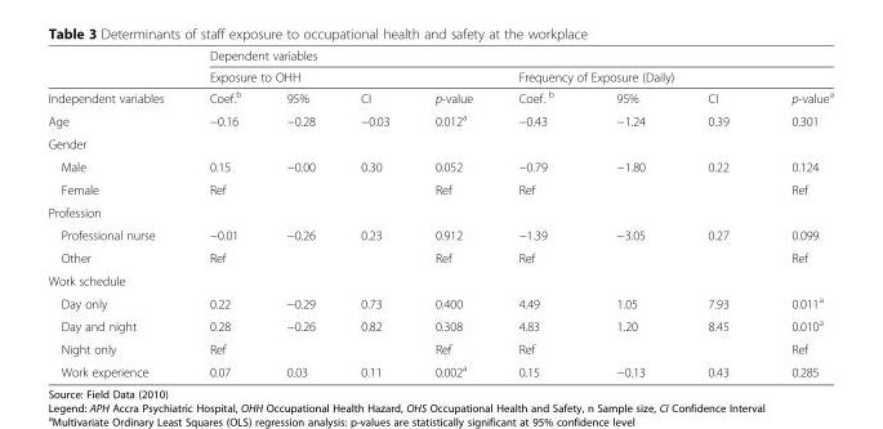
<table><thead><tr><td rowspan="3">Independent variables</td><td colspan="8">Dependent variables</td></tr><tr><td colspan="3">Exposure to OHH</td><td rowspan="2">p-value</td><td colspan="3">Frequency of Exposure (Daily)</td><td rowspan="2">p-value<sup>a</sup></td></tr><tr><td>Coef.<sup>b</sup></td><td>95%</td><td>CI</td><td>Coef. <sup>b</sup></td><td>95%</td><td>CI</td></tr></thead><tbody><tr><td>Age</td><td>−0.16</td><td>−0.28</td><td>−0.03</td><td>0.012<sup>a</sup></td><td>−0.43</td><td>−1.24</td><td>0.39</td><td>0.301</td></tr><tr><td colspan="9">Gender</td></tr><tr><td>Male</td><td>0.15</td><td>−0.00</td><td>0.30</td><td>0.052</td><td>−0.79</td><td>−1.80</td><td>0.22</td><td>0.124</td></tr><tr><td>Female</td><td>Ref</td><td></td><td></td><td>Ref</td><td>Ref</td><td></td><td></td><td>Ref</td></tr><tr><td colspan="9">Profession</td></tr><tr><td>Professional nurse</td><td>−0.01</td><td>−0.26</td><td>0.23</td><td>0.912</td><td>−1.39</td><td>−3.05</td><td>0.27</td><td>0.099</td></tr><tr><td>Other</td><td>Ref</td><td></td><td></td><td>Ref</td><td>Ref</td><td></td><td></td><td>Ref</td></tr><tr><td colspan="9">Work schedule</td></tr><tr><td>Day only</td><td>0.22</td><td>−0.29</td><td>0.73</td><td>0.400</td><td>4.49</td><td>1.05</td><td>7.93</td><td>0.011<sup>a</sup></td></tr><tr><td>Day and night</td><td>0.28</td><td>−0.26</td><td>0.82</td><td>0.308</td><td>4.83</td><td>1.20</td><td>8.45</td><td>0.010<sup>a</sup></td></tr><tr><td>Night only</td><td>Ref</td><td></td><td></td><td>Ref</td><td>Ref</td><td></td><td></td><td>Ref</td></tr><tr><td>Work experience</td><td>0.07</td><td>0.03</td><td>0.11</td><td>0.002<sup>a</sup></td><td>0.15</td><td>−0.13</td><td>0.43</td><td>0.285</td></tr></tbody></table>